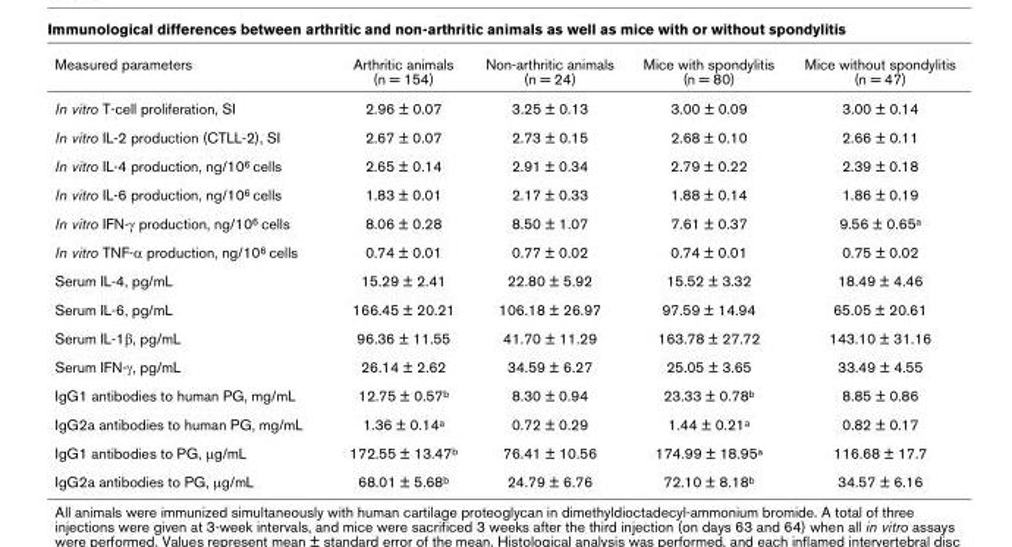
<table><thead><tr><td>Measured parameters</td><td>Arthritic animals (n = 154)</td><td>Non-arthritic animals (n = 24)</td><td>Mice with spondylitis (n = 80)</td><td>Mice without spondylitis (n = 47)</td></tr></thead><tbody><tr><td>In vitro T-cell proliferation, SI</td><td>2.96 ± 0.07</td><td>3.25 ± 0.13</td><td>3.00 ± 0.09</td><td>3.00 ± 0.14</td></tr><tr><td>In vitro IL-2 production (CTLL-2), SI</td><td>2.67 ± 0.07</td><td>2.73 ± 0.15</td><td>2.68 ± 0.10</td><td>2.66 ± 0.11</td></tr><tr><td>In vitro IL-4 production, ng/10<sup>6</sup> cells</td><td>2.65 ± 0.14</td><td>2.91 ± 0.34</td><td>2.79 ± 0.22</td><td>2.39 ± 0.18</td></tr><tr><td>In vitro IL-6 production, ng/10<sup>6</sup> cells</td><td>1.83 ± 0.01</td><td>2.17 ± 0.33</td><td>1.88 ± 0.14</td><td>1.86 ± 0.19</td></tr><tr><td>In vitro IFN-γ production, ng/10<sup>6</sup> cells</td><td>8.06 ± 0.28</td><td>8.50 ± 1.07</td><td>7.61 ± 0.37</td><td>9.56 ± 0.65<sup>a</sup></td></tr><tr><td>In vitro TNF-α production, ng/10<sup>6</sup> cells</td><td>0.74 ± 0.01</td><td>0.77 ± 0.02</td><td>0.74 ± 0.01</td><td>0.75 ± 0.02</td></tr><tr><td>Serum IL-4, pg/mL</td><td>15.29 ± 2.41</td><td>22.80 ± 5.92</td><td>15.52 ± 3.32</td><td>18.49 ± 4.46</td></tr><tr><td>Serum IL-6, pg/mL</td><td>166.45 ± 20.21</td><td>106.18 ± 26.97</td><td>97.59 ± 14.94</td><td>65.05 ± 20.61</td></tr><tr><td>Serum IL-1β, pg/mL</td><td>96.36 ± 11.55</td><td>41.70 ± 11.29</td><td>163.78 ± 27.72</td><td>143.10 ± 31.16</td></tr><tr><td>Serum IFN-γ, pg/mL</td><td>26.14 ± 2.62</td><td>34.59 ± 6.27</td><td>25.05 ± 3.65</td><td>33.49 ± 4.55</td></tr><tr><td>IgG1 antibodies to human PG, mg/mL</td><td>12.75 ± 0.57<sup>b</sup></td><td>8.30 ± 0.94</td><td>23.33 ± 0.78<sup>b</sup></td><td>8.85 ± 0.86</td></tr><tr><td>IgG2a antibodies to human PG, mg/mL</td><td>1.36 ± 0.14<sup>a</sup></td><td>0.72 ± 0.29</td><td>1.44 ± 0.21<sup>a</sup></td><td>0.82 ± 0.17</td></tr><tr><td>IgG1 antibodies to PG, μg/mL</td><td>172.55 ± 13.47<sup>b</sup></td><td>76.41 ± 10.56</td><td>174.99 ± 18.95<sup>a</sup></td><td>116.68 ± 17.7</td></tr><tr><td>IgG2a antibodies to PG, μg/mL</td><td>68.01 ± 5.68<sup>b</sup></td><td>24.79 ± 6.76</td><td>72.10 ± 8.18<sup>b</sup></td><td>34.57 ± 6.16</td></tr></tbody></table>